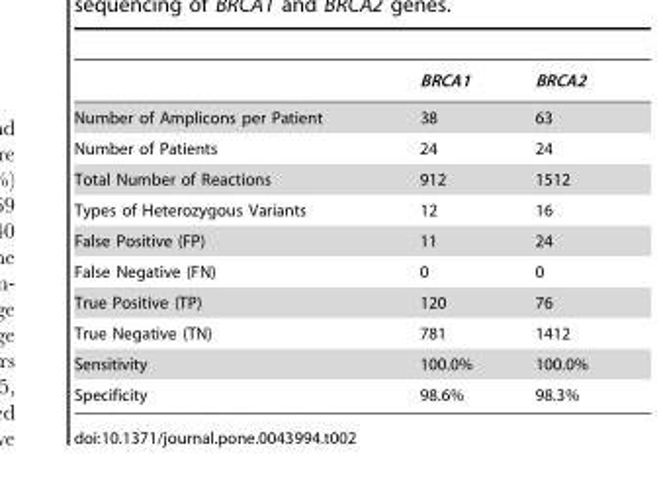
<table><thead><tr><td></td><td>BRCA1</td><td>BRCA2</td></tr></thead><tbody><tr><td>Number of Amplicons per Patient</td><td>38</td><td>63</td></tr><tr><td>Number of Patients</td><td>24</td><td>24</td></tr><tr><td>Total Number of Reactions</td><td>912</td><td>1512</td></tr><tr><td>Types of Heterozygous Variants</td><td>12</td><td>16</td></tr><tr><td>False Positive (FP)</td><td>11</td><td>24</td></tr><tr><td>False Negative (FN)</td><td>0</td><td>0</td></tr><tr><td>True Positive (TP)</td><td>120</td><td>76</td></tr><tr><td>True Negative (TN)</td><td>781</td><td>1412</td></tr><tr><td>Sensitivity</td><td>100.0%</td><td>100.0%</td></tr><tr><td>Specificity</td><td>98.6%</td><td>98.3%</td></tr></tbody></table>